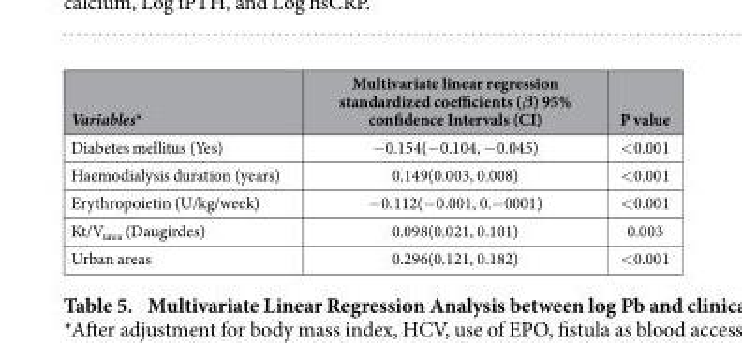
<table><thead><tr><td>Variables*</td><td>Multivariate linear regression standardized coefficients (β) 95% confidence Intervals (CI)</td><td>P value</td></tr></thead><tbody><tr><td>Diabetes mellitus (Yes)</td><td>−0.154(−0.104, −0.045)</td><td>&lt;0.001</td></tr><tr><td>Haemodialysis duration (years)</td><td>0.149(0.003, 0.008)</td><td>&lt;0.001</td></tr><tr><td>Erythropoietin (U/kg/week)</td><td>−0.112(−0.001, 0.−0001)</td><td>&lt;0.001</td></tr><tr><td>Kt/V<sub>urea</sub> (Daugirdes)</td><td>0.098(0.021, 0.101)</td><td>0.003</td></tr><tr><td>Urban areas</td><td>0.296(0.121, 0.182)</td><td>&lt;0.001</td></tr></tbody></table>